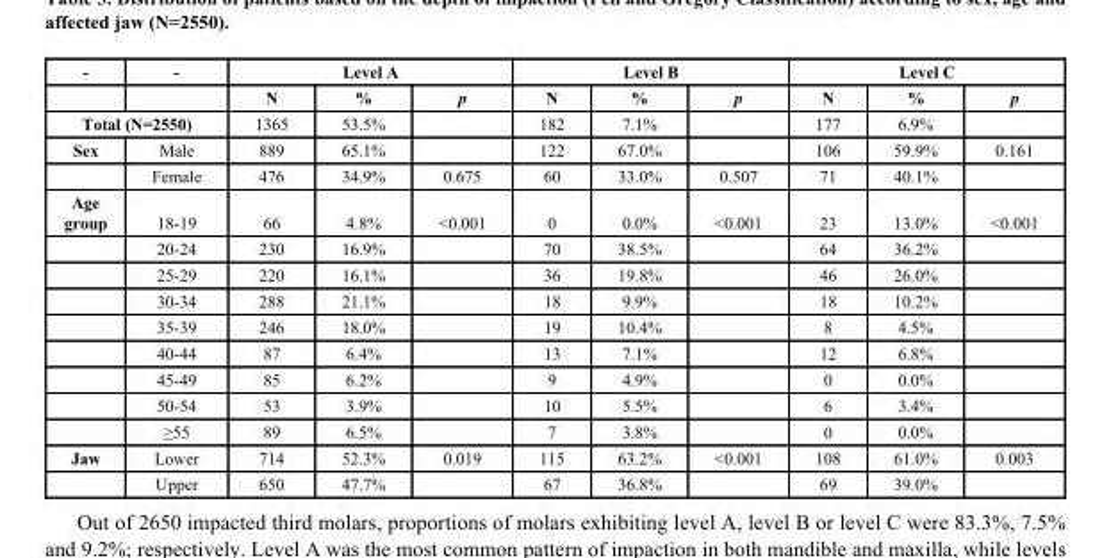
<table><thead><tr><td rowspan="2">-</td><td rowspan="2">-</td><td colspan="3">Level A</td><td colspan="3">Level B</td><td colspan="3">Level C</td></tr><tr><td>N</td><td>%</td><td>p</td><td>N</td><td>%</td><td>p</td><td>N</td><td>%</td><td>p</td></tr></thead><tbody><tr><td colspan="2">Total (N=2550)</td><td>1365</td><td>53.5%</td><td></td><td>182</td><td>7.1%</td><td></td><td>177</td><td>6.9%</td><td></td></tr><tr><td rowspan="2">Sex</td><td>Male</td><td>889</td><td>65.1%</td><td></td><td>122</td><td>67.0%</td><td></td><td>106</td><td>59.9%</td><td>0.161</td></tr><tr><td>Female</td><td>476</td><td>34.9%</td><td>0.675</td><td>60</td><td>33.0%</td><td>0.507</td><td>71</td><td>40.1%</td><td></td></tr><tr><td rowspan="9">Age group</td><td>18-19</td><td>66</td><td>4.8%</td><td>&lt;0.001</td><td>0</td><td>0.0%</td><td>&lt;0.001</td><td>23</td><td>13.0%</td><td>&lt;0.001</td></tr><tr><td>20-24</td><td>230</td><td>16.9%</td><td></td><td>70</td><td>38.5%</td><td></td><td>64</td><td>36.2%</td><td></td></tr><tr><td>25-29</td><td>220</td><td>16.1%</td><td></td><td>36</td><td>19.8%</td><td></td><td>46</td><td>26.0%</td><td></td></tr><tr><td>30-34</td><td>288</td><td>21.1%</td><td></td><td>18</td><td>9.9%</td><td></td><td>18</td><td>10.2%</td><td></td></tr><tr><td>35-39</td><td>246</td><td>18.0%</td><td></td><td>19</td><td>10.4%</td><td></td><td>8</td><td>4.5%</td><td></td></tr><tr><td>40-44</td><td>87</td><td>6.4%</td><td></td><td>13</td><td>7.1%</td><td></td><td>12</td><td>6.8%</td><td></td></tr><tr><td>45-49</td><td>85</td><td>6.2%</td><td></td><td>9</td><td>4.9%</td><td></td><td>0</td><td>0.0%</td><td></td></tr><tr><td>50-54</td><td>53</td><td>3.9%</td><td></td><td>10</td><td>5.5%</td><td></td><td>6</td><td>3.4%</td><td></td></tr><tr><td>≥55</td><td>89</td><td>6.5%</td><td></td><td>7</td><td>3.8%</td><td></td><td>0</td><td>0.0%</td><td></td></tr><tr><td rowspan="2">Jaw</td><td>Lower</td><td>714</td><td>52.3%</td><td>0.019</td><td>115</td><td>63.2%</td><td>&lt;0.001</td><td>108</td><td>61.0%</td><td>0.003</td></tr><tr><td>Upper</td><td>650</td><td>47.7%</td><td></td><td>67</td><td>36.8%</td><td></td><td>69</td><td>39.0%</td><td></td></tr></tbody></table>